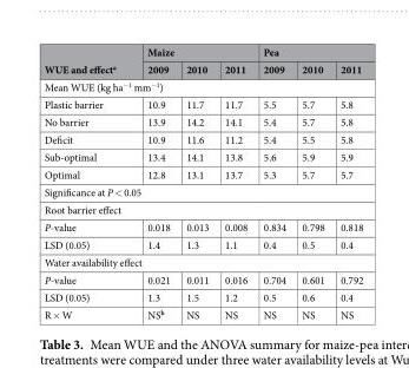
<table><thead><tr><td rowspan="2">WUE and effect<sup>a</sup></td><td colspan="3">Maize</td><td colspan="3">Pea</td></tr><tr><td>2009</td><td>2010</td><td>2011</td><td>2009</td><td>2010</td><td>2011</td></tr></thead><tbody><tr><td colspan="7">Mean WUE (kg ha<sup>−1</sup> mm<sup>−1</sup>)</td></tr><tr><td>Plastic barrier</td><td>10.9</td><td>11.7</td><td>11.7</td><td>5.5</td><td>5.7</td><td>5.8</td></tr><tr><td>No barrier</td><td>13.9</td><td>14.2</td><td>14.1</td><td>5.4</td><td>5.7</td><td>5.8</td></tr><tr><td>Deficit</td><td>10.9</td><td>11.6</td><td>11.2</td><td>5.4</td><td>5.5</td><td>5.8</td></tr><tr><td>Sub-optimal</td><td>13.4</td><td>14.1</td><td>13.8</td><td>5.6</td><td>5.9</td><td>5.9</td></tr><tr><td>Optimal</td><td>12.8</td><td>13.1</td><td>13.7</td><td>5.3</td><td>5.7</td><td>5.7</td></tr><tr><td colspan="7">Significance at P &lt; 0.05</td></tr><tr><td colspan="7">Root barrier effect</td></tr><tr><td>P-value</td><td>0.018</td><td>0.013</td><td>0.008</td><td>0.834</td><td>0.798</td><td>0.818</td></tr><tr><td>LSD (0.05)</td><td>1.4</td><td>1.3</td><td>1.1</td><td>0.4</td><td>0.5</td><td>0.4</td></tr><tr><td colspan="7">Water availability effect</td></tr><tr><td>P-value</td><td>0.021</td><td>0.011</td><td>0.016</td><td>0.704</td><td>0.601</td><td>0.792</td></tr><tr><td>LSD (0.05)</td><td>1.3</td><td>1.5</td><td>1.2</td><td>0.5</td><td>0.6</td><td>0.4</td></tr><tr><td>R × W</td><td>NS<sup>b</sup></td><td>NS</td><td>NS</td><td>NS</td><td>NS</td><td>NS</td></tr></tbody></table>